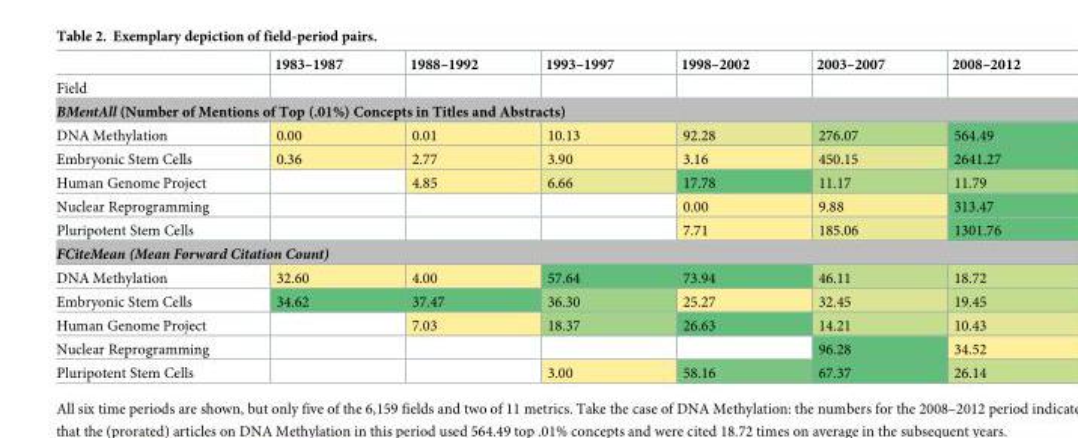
<table><thead><tr><td></td><td>1983–1987</td><td>1988–1992</td><td>1993–1997</td><td>1998–2002</td><td>2003–2007</td><td>2008–2012</td></tr></thead><tbody><tr><td colspan="7">Field</td></tr><tr><td colspan="7">BMentAll (Number of Mentions of Top (.01%) Concepts in Titles and Abstracts)</td></tr><tr><td>DNA Methylation</td><td>0.00</td><td>0.01</td><td>10.13</td><td>92.28</td><td>276.07</td><td>564.49</td></tr><tr><td>Embryonic Stem Cells</td><td>0.36</td><td>2.77</td><td>3.90</td><td>3.16</td><td>450.15</td><td>2641.27</td></tr><tr><td>Human Genome Project</td><td></td><td>4.85</td><td>6.66</td><td>17.78</td><td>11.17</td><td>11.79</td></tr><tr><td>Nuclear Reprogramming</td><td></td><td></td><td></td><td>0.00</td><td>9.88</td><td>313.47</td></tr><tr><td>Pluripotent Stem Cells</td><td></td><td></td><td></td><td>7.71</td><td>185.06</td><td>1301.76</td></tr><tr><td colspan="7">FCiteMean (Mean Forward Citation Count)</td></tr><tr><td>DNA Methylation</td><td>32.60</td><td>4.00</td><td>57.64</td><td>73.94</td><td>46.11</td><td>18.72</td></tr><tr><td>Embryonic Stem Cells</td><td>34.62</td><td>37.47</td><td>36.30</td><td>25.27</td><td>32.45</td><td>19.45</td></tr><tr><td>Human Genome Project</td><td></td><td>7.03</td><td>18.37</td><td>26.63</td><td>14.21</td><td>10.43</td></tr><tr><td>Nuclear Reprogramming</td><td></td><td></td><td></td><td></td><td>96.28</td><td>34.52</td></tr><tr><td>Pluripotent Stem Cells</td><td></td><td></td><td>3.00</td><td>58.16</td><td>67.37</td><td>26.14</td></tr></tbody></table>